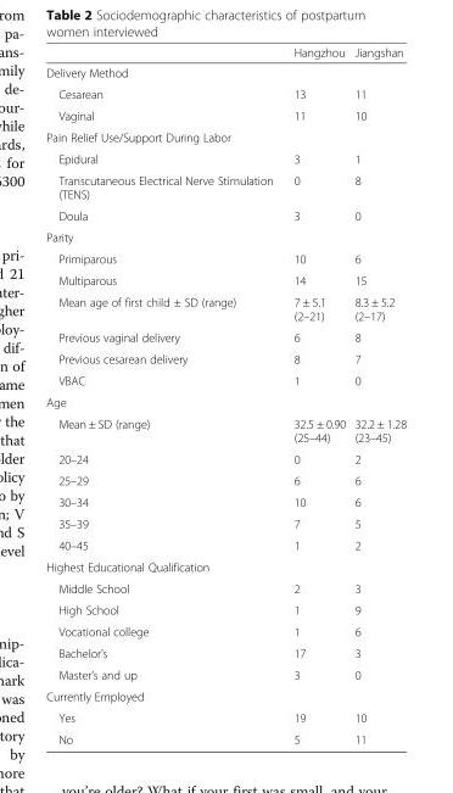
<table><thead><tr><td></td><td>Hangzhou</td><td>Jiangshan</td></tr></thead><tbody><tr><td colspan="3">Delivery Method</td></tr><tr><td>Cesarean</td><td>13</td><td>11</td></tr><tr><td>Vaginal</td><td>11</td><td>10</td></tr><tr><td colspan="3">Pain Relief Use/Support During Labor</td></tr><tr><td>Epidural</td><td>3</td><td>1</td></tr><tr><td>Transcutaneous Electrical Nerve Stimulation (TENS)</td><td>0</td><td>8</td></tr><tr><td>Doula</td><td>3</td><td>0</td></tr><tr><td colspan="3">Parity</td></tr><tr><td>Primiparous</td><td>10</td><td>6</td></tr><tr><td>Multiparous</td><td>14</td><td>15</td></tr><tr><td>Mean age of first child ± SD (range)</td><td>7 ± 5.1 (2–21)</td><td>8.3 ± 5.2 (2–17)</td></tr><tr><td>Previous vaginal delivery</td><td>6</td><td>8</td></tr><tr><td>Previous cesarean delivery</td><td>8</td><td>7</td></tr><tr><td>VBAC</td><td>1</td><td>0</td></tr><tr><td colspan="3">Age</td></tr><tr><td>Mean ± SD (range)</td><td>32.5 ± 0.90 (25–44)</td><td>32.2 ± 1.28 (23–45)</td></tr><tr><td>20–24</td><td>0</td><td>2</td></tr><tr><td>25–29</td><td>6</td><td>6</td></tr><tr><td>30–34</td><td>10</td><td>6</td></tr><tr><td>35–39</td><td>7</td><td>5</td></tr><tr><td>40–45</td><td>1</td><td>2</td></tr><tr><td colspan="3">Highest Educational Qualification</td></tr><tr><td>Middle School</td><td>2</td><td>3</td></tr><tr><td>High School</td><td>1</td><td>9</td></tr><tr><td>Vocational college</td><td>1</td><td>6</td></tr><tr><td>Bachelor’s</td><td>17</td><td>3</td></tr><tr><td>Master’s and up</td><td>3</td><td>0</td></tr><tr><td colspan="3">Currently Employed</td></tr><tr><td>Yes</td><td>19</td><td>10</td></tr><tr><td>No</td><td>5</td><td>11</td></tr></tbody></table>